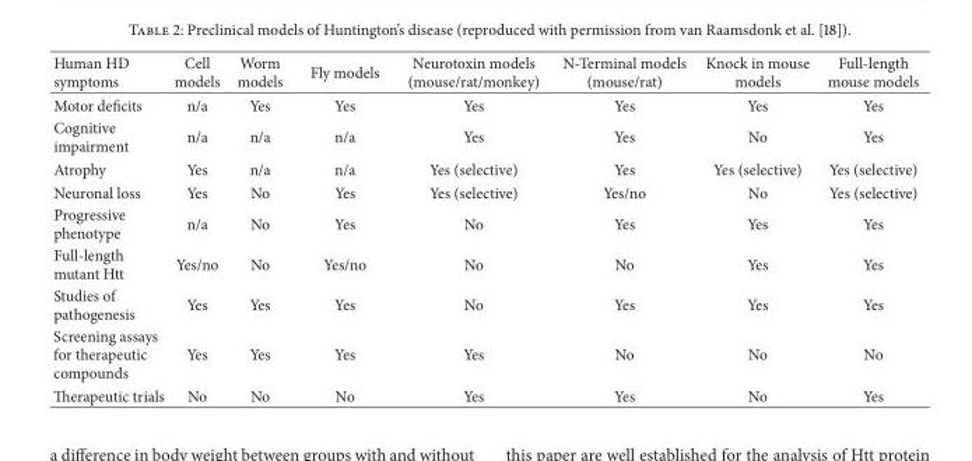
<table><thead><tr><td>Human HD symptoms</td><td>Cell models</td><td>Worm models</td><td>Fly models</td><td>Neurotoxin models (mouse/rat/monkey)</td><td>N-Terminal models (mouse/rat)</td><td>Knock in mouse models</td><td>Full-length mouse models</td></tr></thead><tbody><tr><td>Motor deficits</td><td>n/a</td><td>Yes</td><td>Yes</td><td>Yes</td><td>Yes</td><td>Yes</td><td>Yes</td></tr><tr><td>Cognitive impairment</td><td>n/a</td><td>n/a</td><td>n/a</td><td>Yes</td><td>Yes</td><td>No</td><td>Yes</td></tr><tr><td>Atrophy</td><td>Yes</td><td>n/a</td><td>n/a</td><td>Yes (selective)</td><td>Yes</td><td>Yes (selective)</td><td>Yes (selective)</td></tr><tr><td>Neuronal loss</td><td>Yes</td><td>No</td><td>Yes</td><td>Yes (selective)</td><td>Yes/no</td><td>No</td><td>Yes (selective)</td></tr><tr><td>Progressive phenotype</td><td>n/a</td><td>No</td><td>Yes</td><td>No</td><td>Yes</td><td>Yes</td><td>Yes</td></tr><tr><td>Full-length mutant Htt</td><td>Yes/no</td><td>No</td><td>Yes/no</td><td>No</td><td>No</td><td>Yes</td><td>Yes</td></tr><tr><td>Studies of pathogenesis</td><td>Yes</td><td>Yes</td><td>Yes</td><td>No</td><td>Yes</td><td>Yes</td><td>Yes</td></tr><tr><td>Screening assays for therapeutic compounds</td><td>Yes</td><td>Yes</td><td>Yes</td><td>Yes</td><td>No</td><td>No</td><td>No</td></tr><tr><td>Therapeutic trials</td><td>No</td><td>No</td><td>No</td><td>Yes</td><td>Yes</td><td>No</td><td>Yes</td></tr></tbody></table>